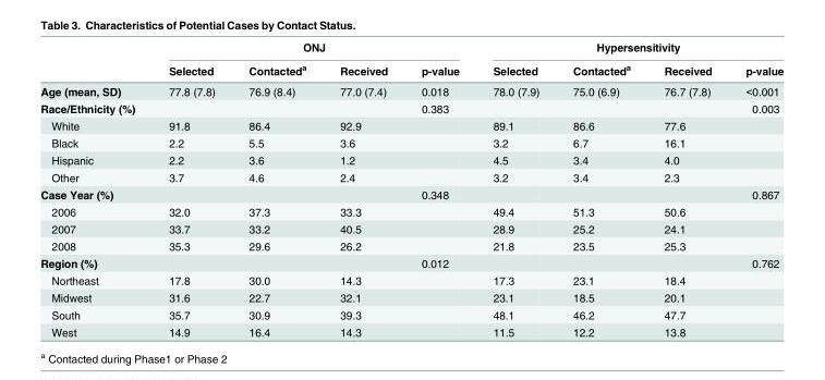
<table><thead><tr><td rowspan="2"></td><td colspan="4">ONJ</td><td colspan="4">Hypersensitivity</td></tr><tr><td>Selected</td><td>Contacted<sup>a</sup></td><td>Received</td><td>p-value</td><td>Selected</td><td>Contacted<sup>a</sup></td><td>Received</td><td>p-value</td></tr></thead><tbody><tr><td>Age (mean, SD)</td><td>77.8 (7.8)</td><td>76.9 (8.4)</td><td>77.0 (7.4)</td><td>0.018</td><td>78.0 (7.9)</td><td>75.0 (6.9)</td><td>76.7 (7.8)</td><td>&lt;0.001</td></tr><tr><td>Race/Ethnicity (%)</td><td></td><td></td><td></td><td>0.383</td><td></td><td></td><td></td><td>0.003</td></tr><tr><td>White</td><td>91.8</td><td>86.4</td><td>92.9</td><td></td><td>89.1</td><td>86.6</td><td>77.6</td><td></td></tr><tr><td>Black</td><td>2.2</td><td>5.5</td><td>3.6</td><td></td><td>3.2</td><td>6.7</td><td>16.1</td><td></td></tr><tr><td>Hispanic</td><td>2.2</td><td>3.6</td><td>1.2</td><td></td><td>4.5</td><td>3.4</td><td>4.0</td><td></td></tr><tr><td>Other</td><td>3.7</td><td>4.6</td><td>2.4</td><td></td><td>3.2</td><td>3.4</td><td>2.3</td><td></td></tr><tr><td>Case Year (%)</td><td></td><td></td><td></td><td>0.348</td><td></td><td></td><td></td><td>0.867</td></tr><tr><td>2006</td><td>32.0</td><td>37.3</td><td>33.3</td><td></td><td>49.4</td><td>51.3</td><td>50.6</td><td></td></tr><tr><td>2007</td><td>33.7</td><td>33.2</td><td>40.5</td><td></td><td>28.9</td><td>25.2</td><td>24.1</td><td></td></tr><tr><td>2008</td><td>35.3</td><td>29.6</td><td>26.2</td><td></td><td>21.8</td><td>23.5</td><td>25.3</td><td></td></tr><tr><td>Region (%)</td><td></td><td></td><td></td><td>0.012</td><td></td><td></td><td></td><td>0.762</td></tr><tr><td>Northeast</td><td>17.8</td><td>30.0</td><td>14.3</td><td></td><td>17.3</td><td>23.1</td><td>18.4</td><td></td></tr><tr><td>Midwest</td><td>31.6</td><td>22.7</td><td>32.1</td><td></td><td>23.1</td><td>18.5</td><td>20.1</td><td></td></tr><tr><td>South</td><td>35.7</td><td>30.9</td><td>39.3</td><td></td><td>48.1</td><td>46.2</td><td>47.7</td><td></td></tr><tr><td>West</td><td>14.9</td><td>16.4</td><td>14.3</td><td></td><td>11.5</td><td>12.2</td><td>13.8</td><td></td></tr></tbody></table>